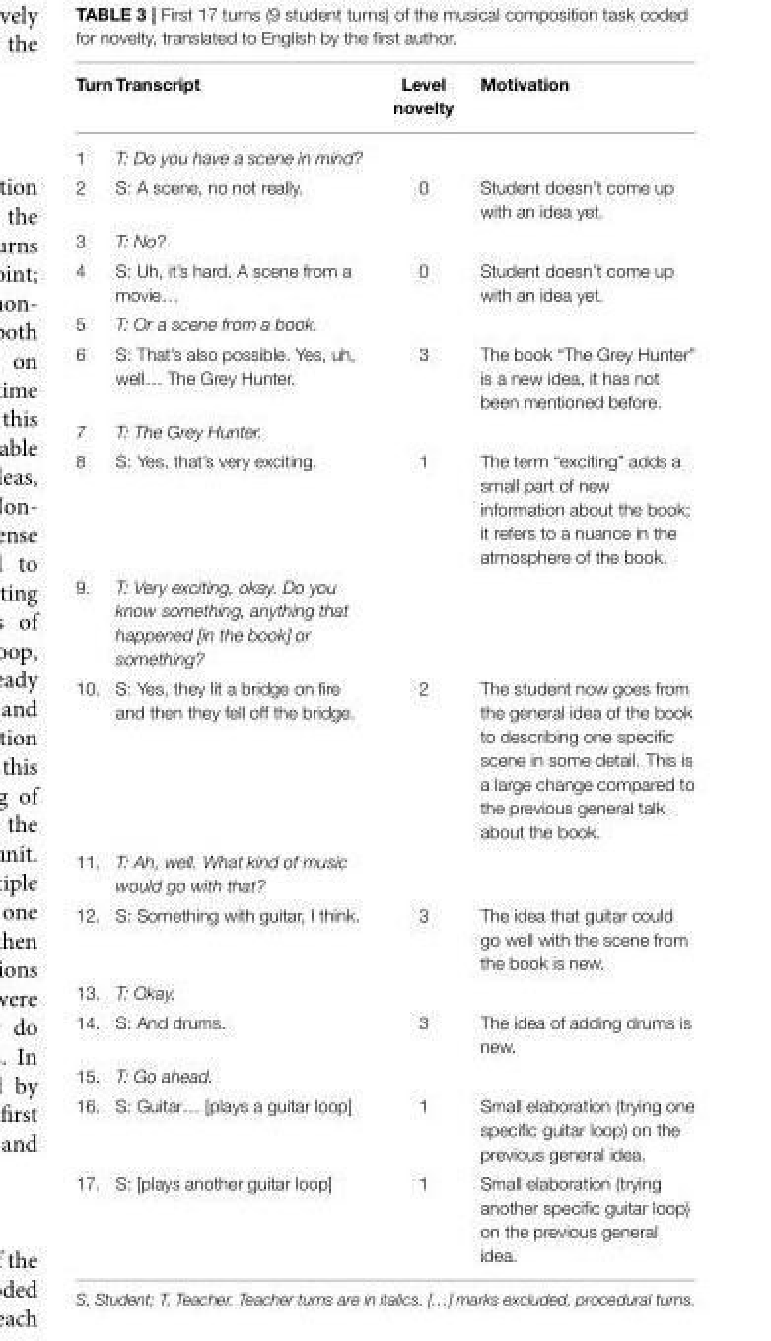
<table><thead><tr><td>Turn</td><td>Transcript</td><td>Level novelty</td><td>Motivation</td></tr></thead><tbody><tr><td>1</td><td>T: Do you have a scene in mind?</td><td></td><td></td></tr><tr><td>2</td><td>S: A scene, no not really.</td><td>0</td><td>Student doesn’t come up with an idea yet.</td></tr><tr><td>3</td><td>T: No?</td><td></td><td></td></tr><tr><td>4</td><td>S: Uh, it’s hard. A scene from a movie…</td><td>0</td><td>Student doesn’t come up with an idea yet.</td></tr><tr><td>5</td><td>T: Or a scene from a book.</td><td></td><td></td></tr><tr><td>6</td><td>S: That’s also possible. Yes, uh, well… The Grey Hunter.</td><td>3</td><td>The book “The Grey Hunter” is a new idea, it has not been mentioned before.</td></tr><tr><td>7</td><td>T: The Grey Hunter.</td><td></td><td></td></tr><tr><td>8</td><td>S: Yes, that’s very exciting.</td><td>1</td><td>The term “exciting” adds a small part of new information about the book; it refers to a nuance in the atmosphere of the book.</td></tr><tr><td>9.</td><td>T: Very exciting, okay. Do you know something, anything that happened [in the book] or something?</td><td></td><td></td></tr><tr><td>10.</td><td>S: Yes, they lit a bridge on fire and then they fell off the bridge.</td><td>2</td><td>The student now goes from the general idea of the book to describing one specific scene in some detail. This is a large change compared to the previous general talk about the book.</td></tr><tr><td>11.</td><td>T: Ah, well. What kind of music would go with that?</td><td></td><td></td></tr><tr><td>12.</td><td>S: Something with guitar, I think.</td><td>3</td><td>The idea that guitar could go well with the scene from the book is new.</td></tr><tr><td>13.</td><td>T: Okay.</td><td></td><td></td></tr><tr><td>14.</td><td>S: And drums.</td><td>3</td><td>The idea of adding drums is new.</td></tr><tr><td>15.</td><td>T: Go ahead.</td><td></td><td></td></tr><tr><td>16.</td><td>S: Guitar… [plays a guitar loop]</td><td>1</td><td>Small elaboration (trying one specific guitar loop) on the previous general idea.</td></tr><tr><td>17.</td><td>S: [plays another guitar loop]</td><td>1</td><td>Small elaboration (trying another specific guitar loop) on the previous general idea.</td></tr></tbody></table>